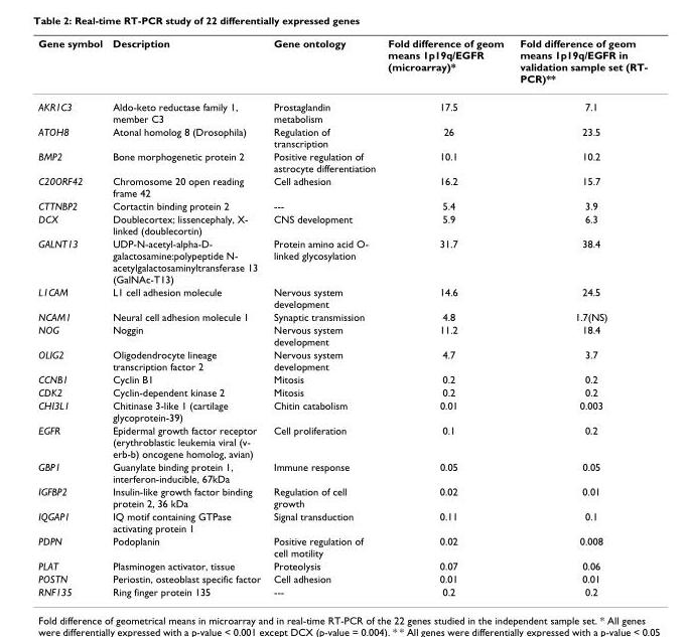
<table><thead><tr><td>Gene symbol</td><td>Description</td><td>Gene ontology</td><td>Fold difference of geom means 1p19q/EGFR (microarray)*</td><td>Fold difference of geom means 1p19q/EGFR in validation sample set (RT- PCR)**</td></tr></thead><tbody><tr><td>AKR1C3</td><td>Aldo-keto reductase family 1, member C3</td><td>Prostaglandin metabolism</td><td>17.5</td><td>7.1</td></tr><tr><td>ATOH8</td><td>Atonal homolog 8 (Drosophila)</td><td>Regulation of transcription</td><td>26</td><td>23.5</td></tr><tr><td>BMP2</td><td>Bone morphogenetic protein 2</td><td>Positive regulation of astrocyte differentiation</td><td>10.1</td><td>10.2</td></tr><tr><td>C20ORF42</td><td>Chromosome 20 open reading frame 42</td><td>Cell adhesion</td><td>16.2</td><td>15.7</td></tr><tr><td>CTTNBP2</td><td>Cortactin binding protein 2</td><td>---</td><td>5.4</td><td>3.9</td></tr><tr><td>DCX</td><td>Doublecortex; lissencephaly, X- linked (doublecortin)</td><td>CNS development</td><td>5.9</td><td>6.3</td></tr><tr><td>GALNT13</td><td>UDP-N-acetyl-alpha-D- galactosamine:polypeptide N- acetylgalactosaminyltransferase 13 (GalNAc-T13)</td><td>Protein amino acid O- linked glycosylation</td><td>31.7</td><td>38.4</td></tr><tr><td>L1CAM</td><td>L1 cell adhesion molecule</td><td>Nervous system development</td><td>14.6</td><td>24.5</td></tr><tr><td>NCAM1</td><td>Neural cell adhesion molecule 1</td><td>Synaptic transmission</td><td>4.8</td><td>1.7(NS)</td></tr><tr><td>NOG</td><td>Noggin</td><td>Nervous system development</td><td>11.2</td><td>18.4</td></tr><tr><td>OLIG2</td><td>Oligodendrocyte lineage transcription factor 2</td><td>Nervous system development</td><td>4.7</td><td>3.7</td></tr><tr><td>CCNB1</td><td>Cyclin B1</td><td>Mitosis</td><td>0.2</td><td>0.2</td></tr><tr><td>CDK2</td><td>Cyclin-dependent kinase 2</td><td>Mitosis</td><td>0.2</td><td>0.2</td></tr><tr><td>CHI3L1</td><td>Chitinase 3-like 1 (cartilage glycoprotein-39)</td><td>Chitin catabolism</td><td>0.01</td><td>0.003</td></tr><tr><td>EGFR</td><td>Epidermal growth factor receptor (erythroblastic leukemia viral (v- erb-b) oncogene homolog, avian)</td><td>Cell proliferation</td><td>0.1</td><td>0.2</td></tr><tr><td>GBP1</td><td>Guanylate binding protein 1, interferon-inducible, 67kDa</td><td>Immune response</td><td>0.05</td><td>0.05</td></tr><tr><td>IGFBP2</td><td>Insulin-like growth factor binding protein 2, 36 kDa</td><td>Regulation of cell growth</td><td>0.02</td><td>0.01</td></tr><tr><td>IQGAP1</td><td>IQ motif containing GTPase activating protein 1</td><td>Signal transduction</td><td>0.11</td><td>0.1</td></tr><tr><td>PDPN</td><td>Podoplanin</td><td>Positive regulation of cell motility</td><td>0.02</td><td>0.008</td></tr><tr><td>PLAT</td><td>Plasminogen activator, tissue</td><td>Proteolysis</td><td>0.07</td><td>0.06</td></tr><tr><td>POSTN</td><td>Periostin, osteoblast specific factor</td><td>Cell adhesion</td><td>0.01</td><td>0.01</td></tr><tr><td>RNF135</td><td>Ring finger protein 135</td><td>---</td><td>0.2</td><td>0.2</td></tr></tbody></table>